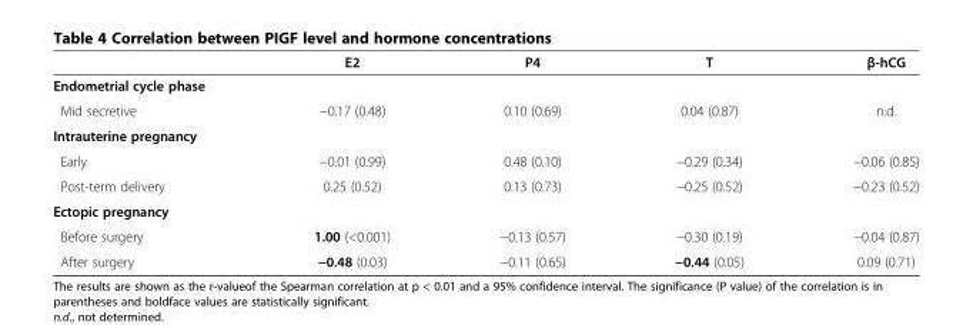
<table><thead><tr><td></td><td>E2</td><td>P4</td><td>T</td><td>β-hCG</td></tr></thead><tbody><tr><td colspan="5">Endometrial cycle phase</td></tr><tr><td>Mid secretive</td><td>−0.17 (0.48)</td><td>0.10 (0.69)</td><td>0.04 (0.87)</td><td>n.d.</td></tr><tr><td colspan="5">Intrauterine pregnancy</td></tr><tr><td>Early</td><td>−0.01 (0.99)</td><td>0.48 (0.10)</td><td>−0.29 (0.34)</td><td>−0.06 (0.85)</td></tr><tr><td>Post-term delivery</td><td>0.25 (0.52)</td><td>0.13 (0.73)</td><td>−0.25 (0.52)</td><td>−0.23 (0.52)</td></tr><tr><td colspan="5">Ectopic pregnancy</td></tr><tr><td>Before surgery</td><td>1.00 (&lt;0.001)</td><td>−0.13 (0.57)</td><td>−0.30 (0.19)</td><td>−0.04 (0.87)</td></tr><tr><td>After surgery</td><td>−0.48 (0.03)</td><td>−0.11 (0.65)</td><td>−0.44 (0.05)</td><td>0.09 (0.71)</td></tr></tbody></table>